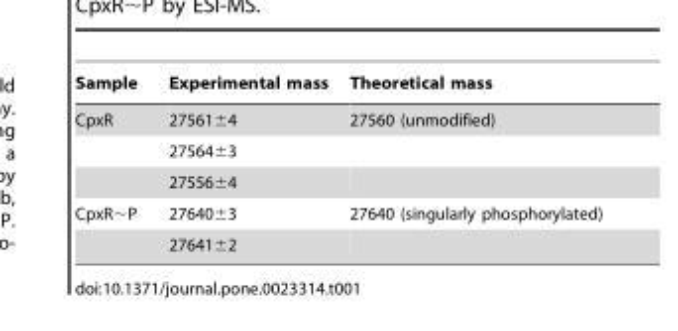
<table><thead><tr><td>Sample</td><td>Experimental mass</td><td>Theoretical mass</td></tr></thead><tbody><tr><td rowspan="3">CpxR</td><td>27561±4</td><td>27560 (unmodified)</td></tr><tr><td>27564±3</td><td></td></tr><tr><td>27556±4</td><td></td></tr><tr><td rowspan="2">CpxR∼P</td><td>27640±3</td><td>27640 (singularly phosphorylated)</td></tr><tr><td>27641±2</td><td></td></tr></tbody></table>